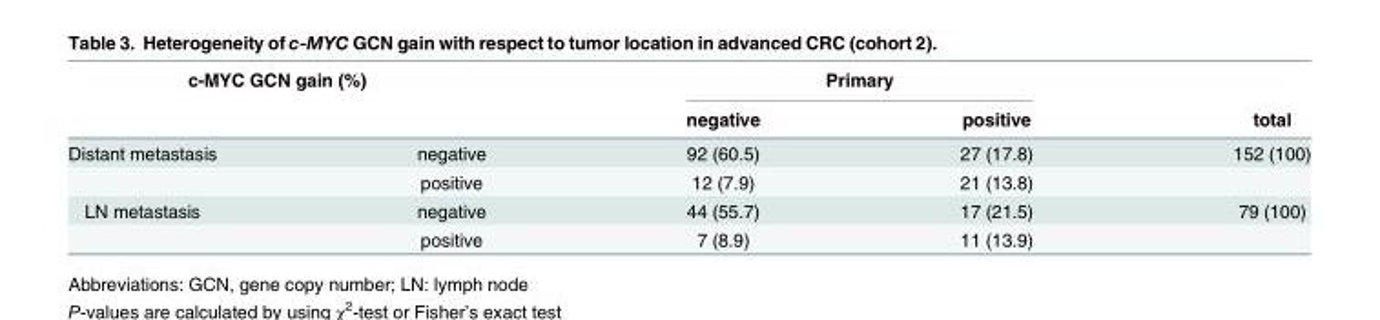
<table><thead><tr><td rowspan="2" colspan="2">c-MYC GCN gain (%)</td><td colspan="2">Primary</td><td rowspan="3">total 152 (100)</td></tr><tr><td rowspan="2">negative 92 (60.5)</td><td rowspan="2">positive 27 (17.8)</td></tr><tr><td>Distant metastasis</td><td>negative</td></tr></thead><tbody><tr><td></td><td>positive</td><td>12 (7.9)</td><td>21 (13.8)</td><td></td></tr><tr><td rowspan="2">LN metastasis</td><td>negative</td><td>44 (55.7)</td><td>17 (21.5)</td><td>79 (100)</td></tr><tr><td>positive</td><td>7 (8.9)</td><td>11 (13.9)</td><td></td></tr></tbody></table>